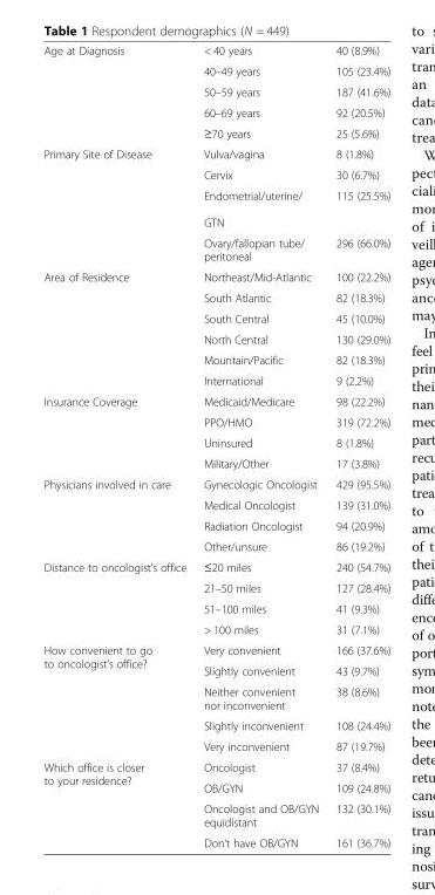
<table><tbody><tr><td rowspan="5">Age at Diagnosis</td><td>&lt; 40 years</td><td>40 (8.9%)</td></tr><tr><td>40–49 years</td><td>105 (23.4%)</td></tr><tr><td>50–59 years</td><td>187 (41.6%)</td></tr><tr><td>60–69 years</td><td>92 (20.5%)</td></tr><tr><td>≥70 years</td><td>25 (5.6%)</td></tr><tr><td rowspan="4">Primary Site of Disease</td><td>Vulva/vagina</td><td>8 (1.8%)</td></tr><tr><td>Cervix</td><td>30 (6.7%)</td></tr><tr><td>Endometrial/uterine/ GTN</td><td>115 (25.5%)</td></tr><tr><td>Ovary/fallopian tube/ peritoneal</td><td>296 (66.0%)</td></tr><tr><td rowspan="6">Area of Residence</td><td>Northeast/Mid-Atlantic</td><td>100 (22.2%)</td></tr><tr><td>South Atlantic</td><td>82 (18.3%)</td></tr><tr><td>South Central</td><td>45 (10.0%)</td></tr><tr><td>North Central</td><td>130 (29.0%)</td></tr><tr><td>Mountain/Pacific</td><td>82 (18.3%)</td></tr><tr><td>International</td><td>9 (2.2%)</td></tr><tr><td rowspan="4">Insurance Coverage</td><td>Medicaid/Medicare</td><td>98 (22.2%)</td></tr><tr><td>PPO/HMO</td><td>319 (72.2%)</td></tr><tr><td>Uninsured</td><td>8 (1.8%)</td></tr><tr><td>Military/Other</td><td>17 (3.8%)</td></tr><tr><td rowspan="4">Physicians involved in care</td><td>Gynecologic Oncologist</td><td>429 (95.5%)</td></tr><tr><td>Medical Oncologist</td><td>139 (31.0%)</td></tr><tr><td>Radiation Oncologist</td><td>94 (20.9%)</td></tr><tr><td>Other/unsure</td><td>86 (19.2%)</td></tr><tr><td rowspan="4">Distance to oncologist’s office</td><td>≤20 miles</td><td>240 (54.7%)</td></tr><tr><td>21–50 miles</td><td>127 (28.4%)</td></tr><tr><td>51–100 miles</td><td>41 (9.3%)</td></tr><tr><td>&gt; 100 miles</td><td>31 (7.1%)</td></tr><tr><td rowspan="5">How convenient to go to oncologist’s office?</td><td>Very convenient</td><td>166 (37.6%)</td></tr><tr><td>Slightly convenient</td><td>43 (9.7%)</td></tr><tr><td>Neither convenient nor inconvenient</td><td>38 (8.6%)</td></tr><tr><td>Slightly inconvenient</td><td>108 (24.4%)</td></tr><tr><td>Very inconvenient</td><td>87 (19.7%)</td></tr><tr><td rowspan="4">Which office is closer to your residence?</td><td>Oncologist</td><td>37 (8.4%)</td></tr><tr><td>OB/GYN</td><td>109 (24.8%)</td></tr><tr><td>Oncologist and OB/GYN equidistant</td><td>132 (30.1%)</td></tr><tr><td>Don’t have OB/GYN</td><td>161 (36.7%)</td></tr></tbody></table>